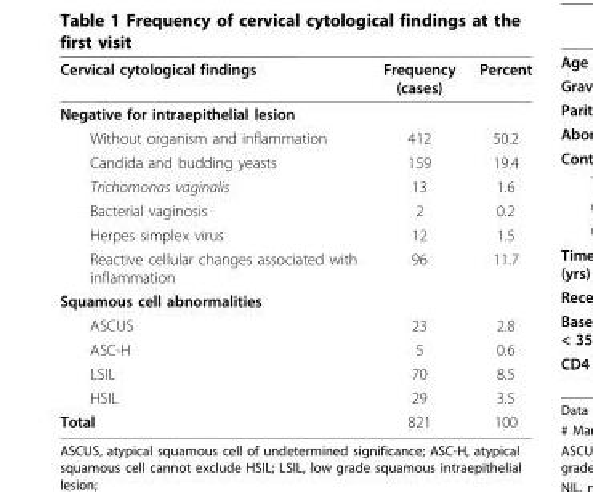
<table><thead><tr><td>Cervical cytological findings</td><td>Frequency (cases)</td><td>Percent</td></tr></thead><tbody><tr><td colspan="3">Negative for intraepithelial lesion</td></tr><tr><td>Without organism and inflammation</td><td>412</td><td>50.2</td></tr><tr><td>Candida and budding yeasts</td><td>159</td><td>19.4</td></tr><tr><td>Trichomonas vaginalis</td><td>13</td><td>1.6</td></tr><tr><td>Bacterial vaginosis</td><td>2</td><td>0.2</td></tr><tr><td>Herpes simplex virus</td><td>12</td><td>1.5</td></tr><tr><td>Reactive cellular changes associated with inflammation</td><td>96</td><td>11.7</td></tr><tr><td colspan="3">Squamous cell abnormalities</td></tr><tr><td>ASCUS</td><td>23</td><td>2.8</td></tr><tr><td>ASC-H</td><td>5</td><td>0.6</td></tr><tr><td>LSIL</td><td>70</td><td>8.5</td></tr><tr><td>HSIL</td><td>29</td><td>3.5</td></tr><tr><td>Total</td><td>821</td><td>100</td></tr></tbody></table>